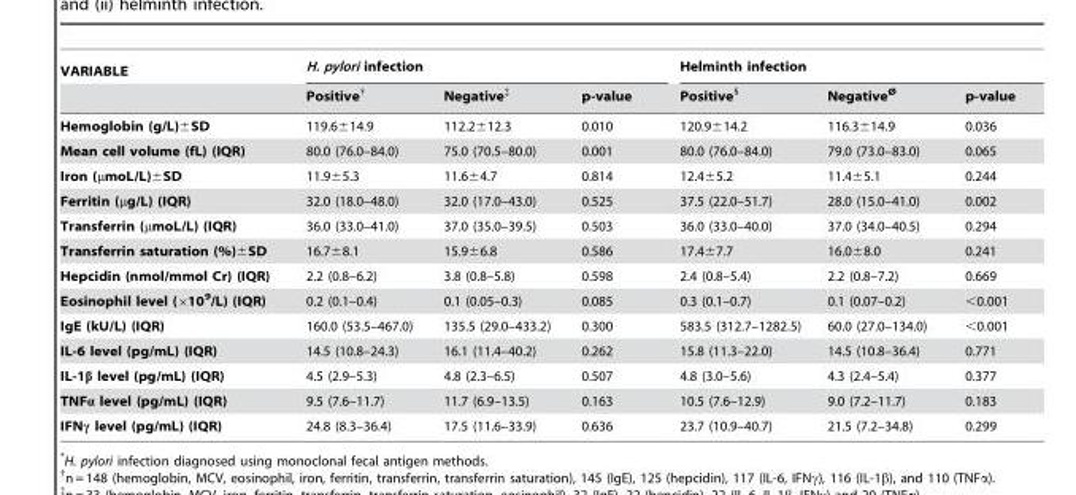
<table><thead><tr><td rowspan="2">VARIABLE</td><td colspan="3">H. pylori infection</td><td colspan="3">Helminth infection</td></tr><tr><td>Positive†</td><td>Negative‡</td><td>p-value</td><td>Positive§</td><td>NegativeØ</td><td>p-value</td></tr></thead><tbody><tr><td>Hemoglobin (g/L)±SD</td><td>119.6±14.9</td><td>112.2±12.3</td><td>0.010</td><td>120.9±14.2</td><td>116.3±14.9</td><td>0.036</td></tr><tr><td>Mean cell volume (fL) (IQR)</td><td>80.0 (76.0–84.0)</td><td>75.0 (70.5–80.0)</td><td>0.001</td><td>80.0 (76.0–84.0)</td><td>79.0 (73.0–83.0)</td><td>0.065</td></tr><tr><td>Iron (μmoL/L)±SD</td><td>11.9±5.3</td><td>11.6±4.7</td><td>0.814</td><td>12.4±5.2</td><td>11.4±5.1</td><td>0.244</td></tr><tr><td>Ferritin (μg/L) (IQR)</td><td>32.0 (18.0–48.0)</td><td>32.0 (17.0–43.0)</td><td>0.525</td><td>37.5 (22.0–51.7)</td><td>28.0 (15.0–41.0)</td><td>0.002</td></tr><tr><td>Transferrin (μmoL/L) (IQR)</td><td>36.0 (33.0–41.0)</td><td>37.0 (35.0–39.5)</td><td>0.503</td><td>36.0 (33.0–40.0)</td><td>37.0 (34.0–40.5)</td><td>0.294</td></tr><tr><td>Transferrin saturation (%)±SD</td><td>16.7±8.1</td><td>15.9±6.8</td><td>0.586</td><td>17.4±7.7</td><td>16.0±8.0</td><td>0.241</td></tr><tr><td>Hepcidin (nmol/mmol Cr) (IQR)</td><td>2.2 (0.8–6.2)</td><td>3.8 (0.8–5.8)</td><td>0.598</td><td>2.4 (0.8–5.4)</td><td>2.2 (0.8–7.2)</td><td>0.669</td></tr><tr><td>Eosinophil level (×10<sup>9</sup>/L) (IQR)</td><td>0.2 (0.1–0.4)</td><td>0.1 (0.05–0.3)</td><td>0.085</td><td>0.3 (0.1–0.7)</td><td>0.1 (0.07–0.2)</td><td>&lt;0.001</td></tr><tr><td>IgE (kU/L) (IQR)</td><td>160.0 (53.5–467.0)</td><td>135.5 (29.0–433.2)</td><td>0.300</td><td>583.5 (312.7–1282.5)</td><td>60.0 (27.0–134.0)</td><td>&lt;0.001</td></tr><tr><td>IL-6 level (pg/mL) (IQR)</td><td>14.5 (10.8–24.3)</td><td>16.1 (11.4–40.2)</td><td>0.262</td><td>15.8 (11.3–22.0)</td><td>14.5 (10.8–36.4)</td><td>0.771</td></tr><tr><td>IL-1β level (pg/mL) (IQR)</td><td>4.5 (2.9–5.3)</td><td>4.8 (2.3–6.5)</td><td>0.507</td><td>4.8 (3.0–5.6)</td><td>4.3 (2.4–5.4)</td><td>0.377</td></tr><tr><td>TNFα level (pg/mL) (IQR)</td><td>9.5 (7.6–11.7)</td><td>11.7 (6.9–13.5)</td><td>0.163</td><td>10.5 (7.6–12.9)</td><td>9.0 (7.2–11.7)</td><td>0.183</td></tr><tr><td>IFNγ level (pg/mL) (IQR)</td><td>24.8 (8.3–36.4)</td><td>17.5 (11.6–33.9)</td><td>0.636</td><td>23.7 (10.9–40.7)</td><td>21.5 (7.2–34.8)</td><td>0.299</td></tr></tbody></table>